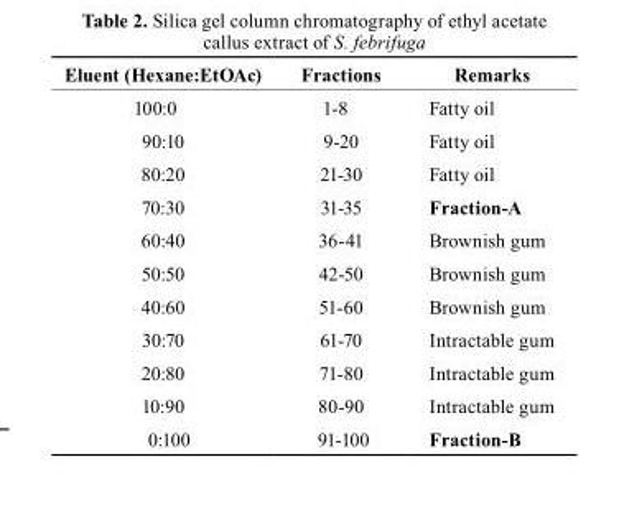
<table><thead><tr><td>eluent (Hexane:etoAc)</td><td>Fractions</td><td>remarks</td></tr></thead><tbody><tr><td>100:0</td><td>1-8</td><td>Fatty oil</td></tr><tr><td>90:10</td><td>9-20</td><td>Fatty oil</td></tr><tr><td>80:20</td><td>21-30</td><td>Fatty oil</td></tr><tr><td>70:30</td><td>31-35</td><td>Fraction-A</td></tr><tr><td>60:40</td><td>36-41</td><td>Brownish gum</td></tr><tr><td>50:50</td><td>42-50</td><td>Brownish gum</td></tr><tr><td>40:60</td><td>51-60</td><td>Brownish gum</td></tr><tr><td>30:70</td><td>61-70</td><td>Intractable gum</td></tr><tr><td>20:80</td><td>71-80</td><td>Intractable gum</td></tr><tr><td>10:90</td><td>80-90</td><td>Intractable gum</td></tr><tr><td>0:100</td><td>91-100</td><td>Fraction-b</td></tr></tbody></table>